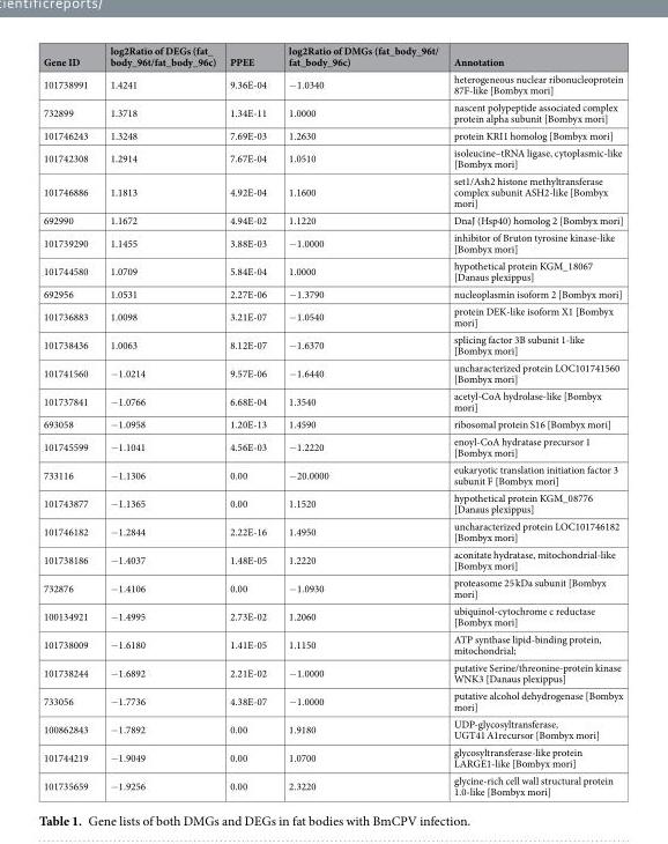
<table><thead><tr><td>Gene ID</td><td>log2Ratio of DEGs (fat_ body_96t/fat_body_96c)</td><td>PPEE</td><td>log2Ratio of DMGs (fat_body_96t/ fat_body_96c)</td><td>Annotation</td></tr></thead><tbody><tr><td>101738991</td><td>1.4241</td><td>9.36E-04</td><td>−1.0340</td><td>heterogeneous nuclear ribonucleoprotein 87F-like [Bombyx mori]</td></tr><tr><td>732899</td><td>1.3718</td><td>1.34E-11</td><td>1.0000</td><td>nascent polypeptide associated complex protein alpha subunit [Bombyx mori]</td></tr><tr><td>101746243</td><td>1.3248</td><td>7.69E-03</td><td>1.2630</td><td>protein KRI1 homolog [Bombyx mori]</td></tr><tr><td>101742308</td><td>1.2914</td><td>7.67E-04</td><td>1.0510</td><td>isoleucine–tRNA ligase, cytoplasmic-like [Bombyx mori]</td></tr><tr><td>101746886</td><td>1.1813</td><td>4.92E-04</td><td>1.1600</td><td>set1/Ash2 histone methyltransferase complex subunit ASH2-like [Bombyx mori]</td></tr><tr><td>692990</td><td>1.1672</td><td>4.94E-02</td><td>1.1220</td><td>DnaJ (Hsp40) homolog 2 [Bombyx mori]</td></tr><tr><td>101739290</td><td>1.1455</td><td>3.88E-03</td><td>−1.0000</td><td>inhibitor of Bruton tyrosine kinase-like [Bombyx mori]</td></tr><tr><td>101744580</td><td>1.0709</td><td>5.84E-04</td><td>1.0000</td><td>hypothetical protein KGM_18067 [Danaus plexippus]</td></tr><tr><td>692956</td><td>1.0531</td><td>2.27E-06</td><td>−1.3790</td><td>nucleoplasmin isoform 2 [Bombyx mori]</td></tr><tr><td>101736883</td><td>1.0098</td><td>3.21E-07</td><td>−1.0540</td><td>protein DEK-like isoform X1 [Bombyx mori]</td></tr><tr><td>101738436</td><td>1.0063</td><td>8.12E-07</td><td>−1.6370</td><td>splicing factor 3B subunit 1-like [Bombyx mori]</td></tr><tr><td>101741560</td><td>−1.0214</td><td>9.57E-06</td><td>−1.6440</td><td>uncharacterized protein LOC101741560 [Bombyx mori]</td></tr><tr><td>101737841</td><td>−1.0766</td><td>6.68E-04</td><td>1.3540</td><td>acetyl-CoA hydrolase-like [Bombyx mori]</td></tr><tr><td>693058</td><td>−1.0958</td><td>1.20E-13</td><td>1.4590</td><td>ribosomal protein S16 [Bombyx mori]</td></tr><tr><td>101745599</td><td>−1.1041</td><td>4.56E-03</td><td>−1.2220</td><td>enoyl-CoA hydratase precursor 1 [Bombyx mori]</td></tr><tr><td>733116</td><td>−1.1306</td><td>0.00</td><td>−20.0000</td><td>eukaryotic translation initiation factor 3 subunit F [Bombyx mori]</td></tr><tr><td>101743877</td><td>−1.1365</td><td>0.00</td><td>1.1520</td><td>hypothetical protein KGM_08776 [Danaus plexippus]</td></tr><tr><td>101746182</td><td>−1.2844</td><td>2.22E-16</td><td>1.4950</td><td>uncharacterized protein LOC101746182 [Bombyx mori]</td></tr><tr><td>101738186</td><td>−1.4037</td><td>1.48E-05</td><td>1.2220</td><td>aconitate hydratase, mitochondrial-like [Bombyx mori]</td></tr><tr><td>732876</td><td>−1.4106</td><td>0.00</td><td>−1.0930</td><td>proteasome 25 kDa subunit [Bombyx mori]</td></tr><tr><td>100134921</td><td>−1.4995</td><td>2.73E-02</td><td>1.2060</td><td>ubiquinol-cytochrome c reductase [Bombyx mori]</td></tr><tr><td>101738009</td><td>−1.6180</td><td>1.41E-05</td><td>1.1150</td><td>ATP synthase lipid-binding protein, mitochondrial;</td></tr><tr><td>101738244</td><td>−1.6892</td><td>2.21E-02</td><td>−1.0000</td><td>putative Serine/threonine-protein kinase WNK3 [Danaus plexippus]</td></tr><tr><td>733056</td><td>−1.7736</td><td>4.38E-07</td><td>−1.0000</td><td>putative alcohol dehydrogenase [Bombyx mori]</td></tr><tr><td>100862843</td><td>−1.7892</td><td>0.00</td><td>1.9180</td><td>UDP-glycosyltransferase, UGT41 A1recursor [Bombyx mori]</td></tr><tr><td>101744219</td><td>−1.9049</td><td>0.00</td><td>1.0700</td><td>glycosyltransferase-like protein LARGE1-like [Bombyx mori]</td></tr><tr><td>101735659</td><td>−1.9256</td><td>0.00</td><td>2.3220</td><td>glycine-rich cell wall structural protein 1.0-like [Bombyx mori]</td></tr></tbody></table>